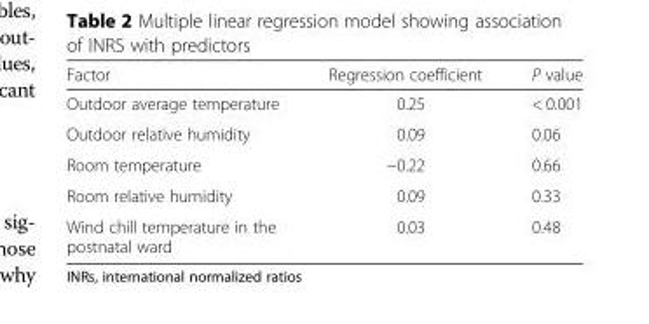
<table><thead><tr><td>Factor</td><td>Regression coefficient</td><td>P value</td></tr></thead><tbody><tr><td>Outdoor average temperature</td><td>0.25</td><td>&lt; 0.001</td></tr><tr><td>Outdoor relative humidity</td><td>0.09</td><td>0.06</td></tr><tr><td>Room temperature</td><td>−0.22</td><td>0.66</td></tr><tr><td>Room relative humidity</td><td>0.09</td><td>0.33</td></tr><tr><td>Wind chill temperature in the postnatal ward</td><td>0.03</td><td>0.48</td></tr></tbody></table>